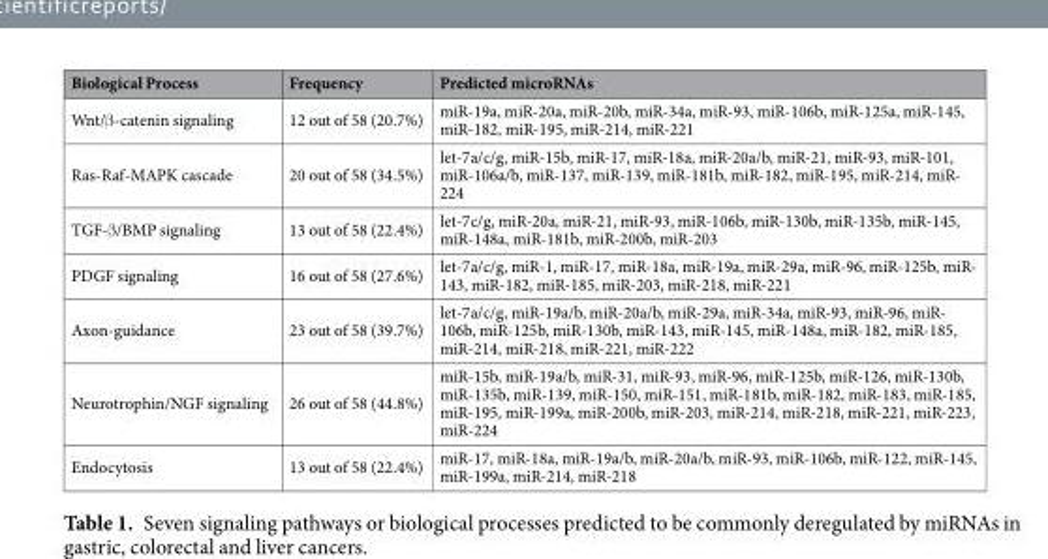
<table><thead><tr><td>Biological Process</td><td>Frequency</td><td>Predicted microRNAs</td></tr></thead><tbody><tr><td>Wnt/β-catenin signaling</td><td>12 out of 58 (20.7%)</td><td>miR-19a, miR-20a, miR-20b, miR-34a, miR-93, miR-106b, miR-125a, miR-145, miR-182, miR-195, miR-214, miR-221</td></tr><tr><td>Ras-Raf-MAPK cascade</td><td>20 out of 58 (34.5%)</td><td>let-7a/c/g, miR-15b, miR-17, miR-18a, miR-20a/b, miR-21, miR-93, miR-101, miR-106a/b, miR-137, miR-139, miR-181b, miR-182, miR-195, miR-214, miR- 224</td></tr><tr><td>TGF-β/BMP signaling</td><td>13 out of 58 (22.4%)</td><td>let-7c/g, miR-20a, miR-21, miR-93, miR-106b, miR-130b, miR-135b, miR-145, miR-148a, miR-181b, miR-200b, miR-203</td></tr><tr><td>PDGF signaling</td><td>16 out of 58 (27.6%)</td><td>let-7a/c/g, miR-1, miR-17, miR-18a, miR-19a, miR-29a, miR-96, miR-125b, miR- 143, miR-182, miR-185, miR-203, miR-218, miR-221</td></tr><tr><td>Axon-guidance</td><td>23 out of 58 (39.7%)</td><td>let-7a/c/g, miR-19a/b, miR-20a/b, miR-29a, miR-34a, miR-93, miR-96, miR- 106b, miR-125b, miR-130b, miR-143, miR-145, miR-148a, miR-182, miR-185, miR-214, miR-218, miR-221, miR-222</td></tr><tr><td>Neurotrophin/NGF signaling</td><td>26 out of 58 (44.8%)</td><td>miR-15b, miR-19a/b, miR-31, miR-93, miR-96, miR-125b, miR-126, miR-130b, miR-135b, miR-139, miR-150, miR-151, miR-181b, miR-182, miR-183, miR-185, miR-195, miR-199a, miR-200b, miR-203, miR-214, miR-218, miR-221, miR-223, miR-224</td></tr><tr><td>Endocytosis</td><td>13 out of 58 (22.4%)</td><td>miR-17, miR-18a, miR-19a/b, miR-20a/b, miR-93, miR-106b, miR-122, miR-145, miR-199a, miR-214, miR-218</td></tr></tbody></table>